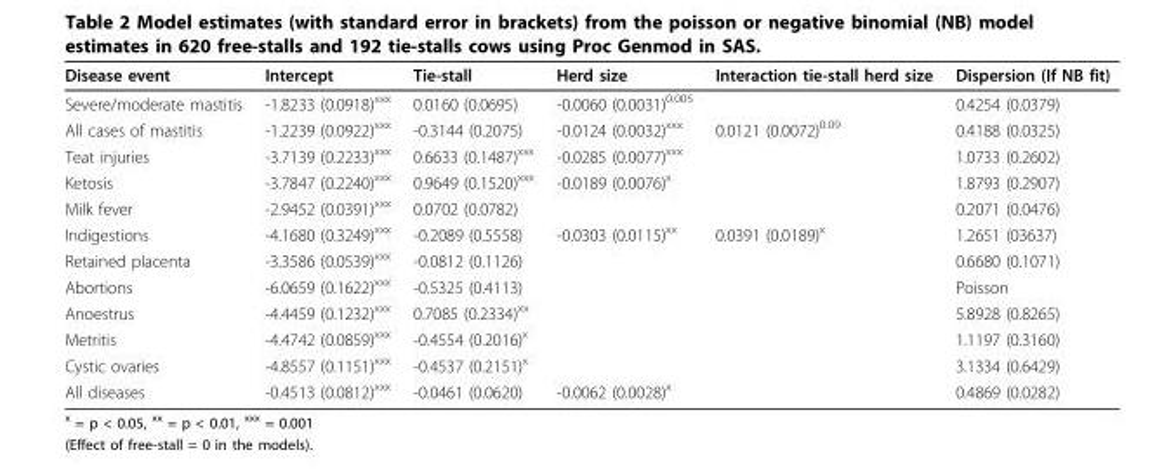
<table><thead><tr><td>Disease event</td><td>Intercept</td><td>Tie-stall</td><td>Herd size</td><td>Interaction tie-stall herd size</td><td>Dispersion (If NB fit)</td></tr></thead><tbody><tr><td>Severe/moderate mastitis</td><td>-1.8233 (0.0918)<sup>xxx</sup></td><td>0.0160 (0.0695)</td><td>-0.0060 (0.0031)<sup>0.005</sup></td><td></td><td>0.4254 (0.0379)</td></tr><tr><td>All cases of mastitis</td><td>-1.2239 (0.0922)<sup>xxx</sup></td><td>-0.3144 (0.2075)</td><td>-0.0124 (0.0032)<sup>xxx</sup></td><td>0.0121 (0.0072)<sup>0.09</sup></td><td>0.4188 (0.0325)</td></tr><tr><td>Teat injuries</td><td>-3.7139 (0.2233)<sup>xxx</sup></td><td>0.6633 (0.1487)<sup>xxx</sup></td><td>-0.0285 (0.0077)<sup>xxx</sup></td><td></td><td>1.0733 (0.2602)</td></tr><tr><td>Ketosis</td><td>-3.7847 (0.2240)<sup>xxx</sup></td><td>0.9649 (0.1520)<sup>xxx</sup></td><td>-0.0189 (0.0076)<sup>x</sup></td><td></td><td>1.8793 (0.2907)</td></tr><tr><td>Milk fever</td><td>-2.9452 (0.0391)<sup>xxx</sup></td><td>0.0702 (0.0782)</td><td></td><td></td><td>0.2071 (0.0476)</td></tr><tr><td>Indigestions</td><td>-4.1680 (0.3249)<sup>xxx</sup></td><td>-0.2089 (0.5558)</td><td>-0.0303 (0.0115)<sup>xx</sup></td><td>0.0391 (0.0189)<sup>x</sup></td><td>1.2651 (03637)</td></tr><tr><td>Retained placenta</td><td>-3.3586 (0.0539)<sup>xxx</sup></td><td>-0.0812 (0.1126)</td><td></td><td></td><td>0.6680 (0.1071)</td></tr><tr><td>Abortions</td><td>-6.0659 (0.1622)<sup>xxx</sup></td><td>-0.5325 (0.4113)</td><td></td><td></td><td>Poisson</td></tr><tr><td>Anoestrus</td><td>-4.4459 (0.1232)<sup>xxx</sup></td><td>0.7085 (0.2334)<sup>xx</sup></td><td></td><td></td><td>5.8928 (0.8265)</td></tr><tr><td>Metritis</td><td>-4.4742 (0.0859)<sup>xxx</sup></td><td>-0.4554 (0.2016)<sup>x</sup></td><td></td><td></td><td>1.1197 (0.3160)</td></tr><tr><td>Cystic ovaries</td><td>-4.8557 (0.1151)<sup>xxx</sup></td><td>-0.4537 (0.2151)<sup>x</sup></td><td></td><td></td><td>3.1334 (0.6429)</td></tr><tr><td>All diseases</td><td>-0.4513 (0.0812)<sup>xxx</sup></td><td>-0.0461 (0.0620)</td><td>-0.0062 (0.0028)<sup>x</sup></td><td></td><td>0.4869 (0.0282)</td></tr></tbody></table>